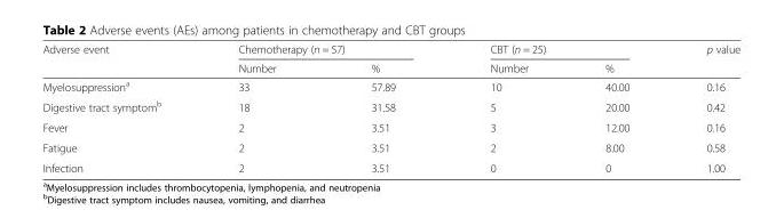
<table><thead><tr><td rowspan="2">Adverse event</td><td colspan="2">Chemotherapy (n = 57)</td><td colspan="2">CBT (n = 25)</td><td rowspan="2">p value</td></tr><tr><td>Number</td><td>%</td><td>Number</td><td>%</td></tr></thead><tbody><tr><td>Myelosuppression<sup>a</sup></td><td>33</td><td>57.89</td><td>10</td><td>40.00</td><td>0.16</td></tr><tr><td>Digestive tract symptom<sup>b</sup></td><td>18</td><td>31.58</td><td>5</td><td>20.00</td><td>0.42</td></tr><tr><td>Fever</td><td>2</td><td>3.51</td><td>3</td><td>12.00</td><td>0.16</td></tr><tr><td>Fatigue</td><td>2</td><td>3.51</td><td>2</td><td>8.00</td><td>0.58</td></tr><tr><td>Infection</td><td>2</td><td>3.51</td><td>0</td><td>0</td><td>1.00</td></tr></tbody></table>